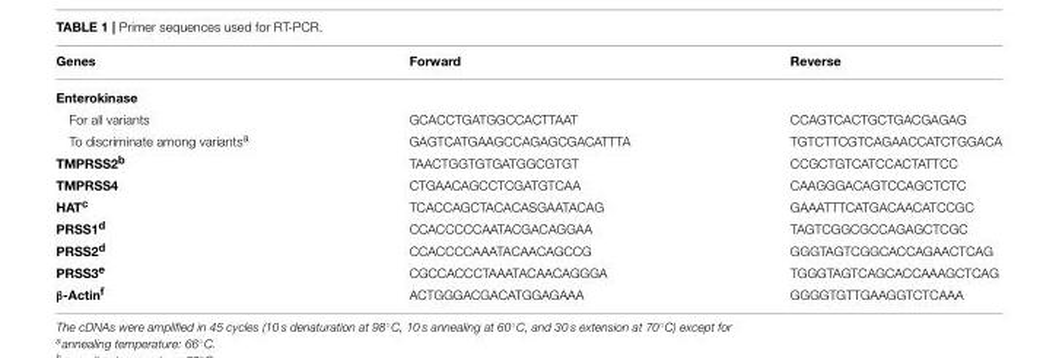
<table><thead><tr><td>Genes</td><td>Forward</td><td>Reverse</td></tr></thead><tbody><tr><td colspan="3">Enterokinase</td></tr><tr><td>For all variants</td><td>GCACCTGATGGCCACTTAAT</td><td>CCAGTCACTGCTGACGAGAG</td></tr><tr><td>To discriminate among variants<sup>a</sup></td><td>GAGTCATGAAGCCAGAGCGACATTTA</td><td>TGTCTTCGTCAGAACCATCTGGACA</td></tr><tr><td>TMPRSS2<sup>b</sup></td><td>TAACTGGTGTGATGGCGTGT</td><td>CCGCTGTCATCCACTATTCC</td></tr><tr><td>TMPRSS4</td><td>CTGAACAGCCTCGATGTCAA</td><td>CAAGGGACAGTCCAGCTCTC</td></tr><tr><td>HAT<sup>c</sup></td><td>TCACCAGCTACACASGAATACAG</td><td>GAAATTTCATGACAACATCCGC</td></tr><tr><td>PRSS1<sup>d</sup></td><td>CCACCCCCAATACGACAGGAA</td><td>TAGTCGGCGCCAGAGCTCGC</td></tr><tr><td>PRSS2<sup>d</sup></td><td>CCACCCCAAATACAACAGCCG</td><td>GGGTAGTCGGCACCAGAACTCAG</td></tr><tr><td>PRSS3<sup>e</sup></td><td>CGCCACCCTAAATACAACAGGGA</td><td>TGGGTAGTCAGCACCAAAGCTCAG</td></tr><tr><td>β-Actin<sup>f</sup></td><td>ACTGGGACGACATGGAGAAA</td><td>GGGGTGTTGAAGGTCTCAAA</td></tr></tbody></table>